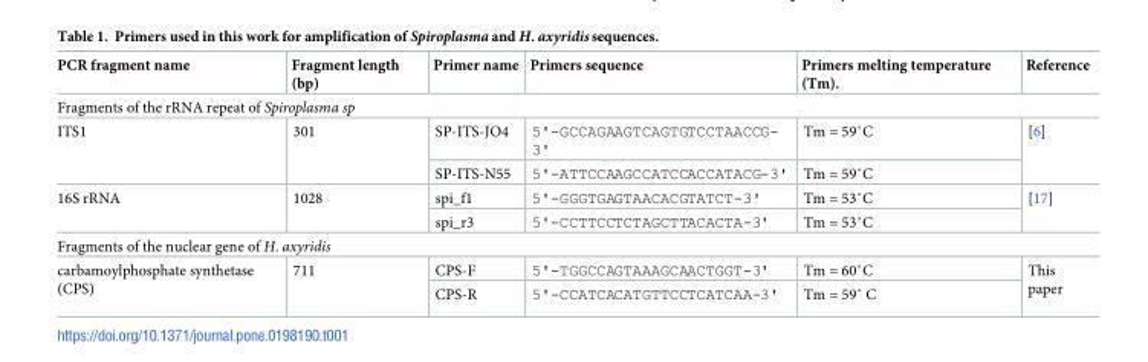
<table><thead><tr><td>PCR fragment name</td><td>Fragment length (bp)</td><td>Primer name</td><td>Primers sequence</td><td>Primers melting temperature (Tm).</td><td>Reference</td></tr></thead><tbody><tr><td colspan="6">Fragments of the rRNA repeat of Spiroplasma sp</td></tr><tr><td rowspan="2">ITS1</td><td rowspan="2">301</td><td>SP-ITS-JO4</td><td>5&#x27;-GCCAGAAGTCAGTGTCCTAACCG- 3&#x27;</td><td>Tm = 59˚C</td><td rowspan="2">[6]</td></tr><tr><td>SP-ITS-N55</td><td>5&#x27;-ATTCCAAGCCATCCACCATACG-3&#x27;</td><td>Tm = 59˚C</td></tr><tr><td rowspan="2">16S rRNA</td><td rowspan="2">1028</td><td>spi_f1</td><td>5&#x27;-GGGTGAGTAACACGTATCT-3&#x27;</td><td>Tm = 53˚C</td><td rowspan="2">[17]</td></tr><tr><td>spi_r3</td><td>5&#x27;-CCTTCCTCTAGCTTACACTA-3&#x27;</td><td>Tm = 53˚C</td></tr><tr><td colspan="6">Fragments of the nuclear gene of H. axyridis</td></tr><tr><td rowspan="2">carbamoylphosphate synthetase (CPS)</td><td rowspan="2">711</td><td>CPS-F</td><td>5&#x27;-TGGCCAGTAAAGCAACTGGT-3&#x27;</td><td>Tm = 60˚C</td><td rowspan="2">This paper</td></tr><tr><td>CPS-R</td><td>5&#x27;-CCATCACATGTTCCTCATCAA-3&#x27;</td><td>Tm = 59˚ C</td></tr></tbody></table>